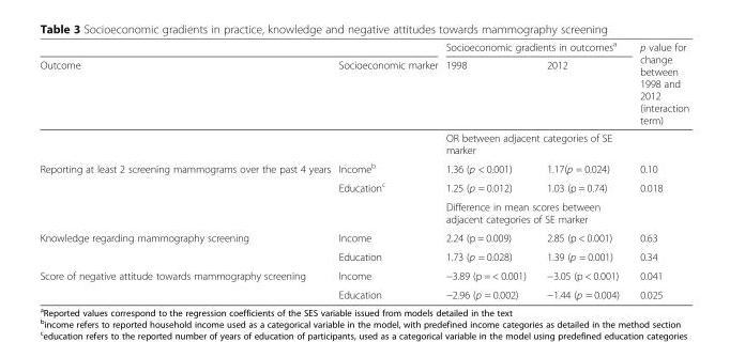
<table><thead><tr><td rowspan="2">Outcome</td><td rowspan="2">Socioeconomic marker</td><td colspan="2">Socioeconomic gradients in outcomes<sup>a</sup></td><td rowspan="2">p value for change between 1998 and 2012 (interaction term)</td></tr><tr><td>1998</td><td>2012</td></tr></thead><tbody><tr><td></td><td></td><td colspan="2">OR between adjacent categories of SE marker</td><td></td></tr><tr><td rowspan="3">Reporting at least 2 screening mammograms over the past 4 years</td><td>Income<sup>b</sup></td><td>1.36 (p &lt; 0.001)</td><td>1.17(p = 0.024)</td><td>0.10</td></tr><tr><td>Education<sup>c</sup></td><td>1.25 (p = 0.012)</td><td>1.03 (p = 0.74)</td><td>0.018</td></tr><tr><td></td><td colspan="2">Difference in mean scores between adjacent categories of SE marker</td><td></td></tr><tr><td rowspan="2">Knowledge regarding mammography screening</td><td>Income</td><td>2.24 (p = 0.009)</td><td>2.85 (p &lt; 0.001)</td><td>0.63</td></tr><tr><td>Education</td><td>1.73 (p = 0.028)</td><td>1.39 (p = 0.001)</td><td>0.34</td></tr><tr><td rowspan="2">Score of negative attitude towards mammography screening</td><td>Income</td><td>−3.89 (p = &lt; 0.001)</td><td>−3.05 (p &lt; 0.001)</td><td>0.041</td></tr><tr><td>Education</td><td>−2.96 (p = 0.002)</td><td>−1.44 (p = 0.004)</td><td>0.025</td></tr></tbody></table>